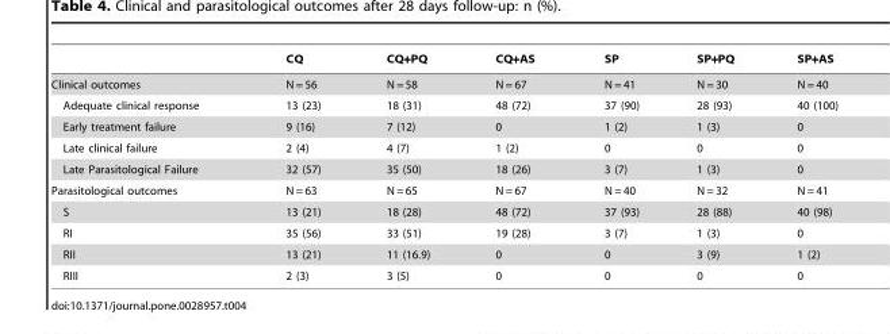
<table><thead><tr><td></td><td>CQ</td><td>CQ+PQ</td><td>CQ+AS</td><td>SP</td><td>SP+PQ</td><td>SP+AS</td></tr></thead><tbody><tr><td>Clinical outcomes</td><td>N = 56</td><td>N = 58</td><td>N = 67</td><td>N = 41</td><td>N = 30</td><td>N = 40</td></tr><tr><td>Adequate clinical response</td><td>13 (23)</td><td>18 (31)</td><td>48 (72)</td><td>37 (90)</td><td>28 (93)</td><td>40 (100)</td></tr><tr><td>Early treatment failure</td><td>9 (16)</td><td>7 (12)</td><td>0</td><td>1 (2)</td><td>1 (3)</td><td>0</td></tr><tr><td>Late clinical failure</td><td>2 (4)</td><td>4 (7)</td><td>1 (2)</td><td>0</td><td>0</td><td>0</td></tr><tr><td>Late Parasitological Failure</td><td>32 (57)</td><td>35 (50)</td><td>18 (26)</td><td>3 (7)</td><td>1 (3)</td><td>0</td></tr><tr><td>Parasitological outcomes</td><td>N = 63</td><td>N = 65</td><td>N = 67</td><td>N = 40</td><td>N = 32</td><td>N = 41</td></tr><tr><td>S</td><td>13 (21)</td><td>18 (28)</td><td>48 (72)</td><td>37 (93)</td><td>28 (88)</td><td>40 (98)</td></tr><tr><td>RI</td><td>35 (56)</td><td>33 (51)</td><td>19 (28)</td><td>3 (7)</td><td>1 (3)</td><td>0</td></tr><tr><td>RII</td><td>13 (21)</td><td>11 (16.9)</td><td>0</td><td>0</td><td>3 (9)</td><td>1 (2)</td></tr><tr><td>RIII</td><td>2 (3)</td><td>3 (5)</td><td>0</td><td>0</td><td>0</td><td>0</td></tr></tbody></table>